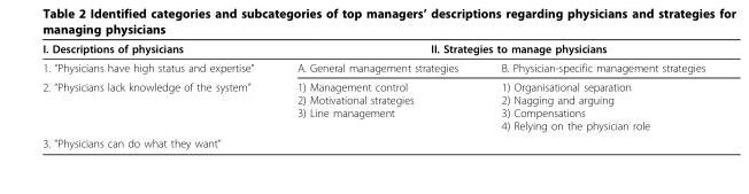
<table><thead><tr><td rowspan="2">I. Descriptions of physicians 1. “Physicians have high status and expertise”</td><td colspan="2">II. Strategies to manage physicians</td></tr><tr><td>A. General management strategies</td><td>B. Physician-specific management strategies</td></tr></thead><tbody><tr><td>2. “Physicians lack knowledge of the system”</td><td>1) Management control 2) Motivational strategies 3) Line management</td><td>1) Organisational separation 2) Nagging and arguing 3) Compensations 4) Relying on the physician role</td></tr><tr><td>3. “Physicians can do what they want”</td><td></td><td></td></tr></tbody></table>